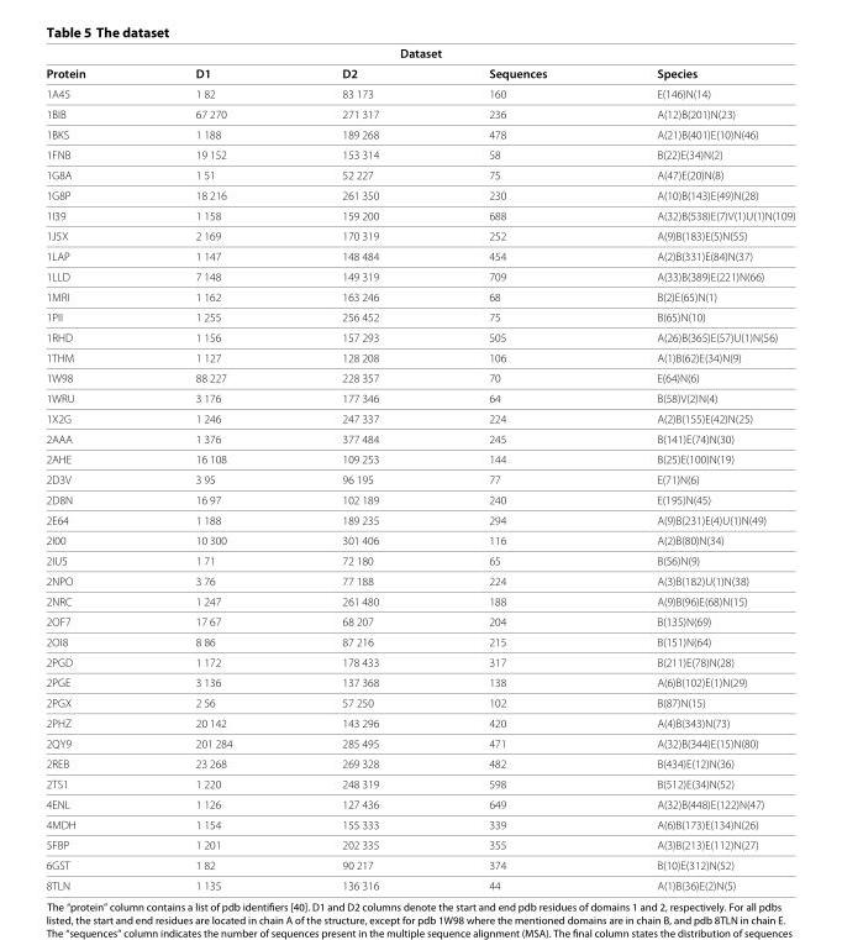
<table><thead><tr><td colspan="5">Dataset</td></tr><tr><td>Protein</td><td>D1</td><td>D2</td><td>Sequences</td><td>Species</td></tr></thead><tbody><tr><td>1A45</td><td>1 82</td><td>83 173</td><td>160</td><td>E(146)N(14)</td></tr><tr><td>1BIB</td><td>67 270</td><td>271 317</td><td>236</td><td>A(12)B(201)N(23)</td></tr><tr><td>1BKS</td><td>1 188</td><td>189 268</td><td>478</td><td>A(21)B(401)E(10)N(46)</td></tr><tr><td>1FNB</td><td>19 152</td><td>153 314</td><td>58</td><td>B(22)E(34)N(2)</td></tr><tr><td>1G8A</td><td>1 51</td><td>52 227</td><td>75</td><td>A(47)E(20)N(8)</td></tr><tr><td>1G8P</td><td>18 216</td><td>261 350</td><td>230</td><td>A(10)B(143)E(49)N(28)</td></tr><tr><td>1I39</td><td>1 158</td><td>159 200</td><td>688</td><td>A(32)B(538)E(7)V(1)U(1)N(109)</td></tr><tr><td>1J5X</td><td>2 169</td><td>170 319</td><td>252</td><td>A(9)B(183)E(5)N(55)</td></tr><tr><td>1LAP</td><td>1 147</td><td>148 484</td><td>454</td><td>A(2)B(331)E(84)N(37)</td></tr><tr><td>1LLD</td><td>7 148</td><td>149 319</td><td>709</td><td>A(33)B(389)E(221)N(66)</td></tr><tr><td>1MRI</td><td>1 162</td><td>163 246</td><td>68</td><td>B(2)E(65)N(1)</td></tr><tr><td>1PII</td><td>1 255</td><td>256 452</td><td>75</td><td>B(65)N(10)</td></tr><tr><td>1RHD</td><td>1 156</td><td>157 293</td><td>505</td><td>A(26)B(365)E(57)U(1)N(56)</td></tr><tr><td>1THM</td><td>1 127</td><td>128 208</td><td>106</td><td>A(1)B(62)E(34)N(9)</td></tr><tr><td>1W98</td><td>88 227</td><td>228 357</td><td>70</td><td>E(64)N(6)</td></tr><tr><td>1WRU</td><td>3 176</td><td>177 346</td><td>64</td><td>B(58)V(2)N(4)</td></tr><tr><td>1X2G</td><td>1 246</td><td>247 337</td><td>224</td><td>A(2)B(155)E(42)N(25)</td></tr><tr><td>2AAA</td><td>1 376</td><td>377 484</td><td>245</td><td>B(141)E(74)N(30)</td></tr><tr><td>2AHE</td><td>16 108</td><td>109 253</td><td>144</td><td>B(25)E(100)N(19)</td></tr><tr><td>2D3V</td><td>3 95</td><td>96 195</td><td>77</td><td>E(71)N(6)</td></tr><tr><td>2D8N</td><td>16 97</td><td>102 189</td><td>240</td><td>E(195)N(45)</td></tr><tr><td>2E64</td><td>1 188</td><td>189 235</td><td>294</td><td>A(9)B(231)E(4)U(1)N(49)</td></tr><tr><td>2I00</td><td>10 300</td><td>301 406</td><td>116</td><td>A(2)B(80)N(34)</td></tr><tr><td>2IU5</td><td>1 71</td><td>72 180</td><td>65</td><td>B(56)N(9)</td></tr><tr><td>2NPO</td><td>3 76</td><td>77 188</td><td>224</td><td>A(3)B(182)U(1)N(38)</td></tr><tr><td>2NRC</td><td>1 247</td><td>261 480</td><td>188</td><td>A(9)B(96)E(68)N(15)</td></tr><tr><td>2OF7</td><td>17 67</td><td>68 207</td><td>204</td><td>B(135)N(69)</td></tr><tr><td>2OI8</td><td>8 86</td><td>87 216</td><td>215</td><td>B(151)N(64)</td></tr><tr><td>2PGD</td><td>1 172</td><td>178 433</td><td>317</td><td>B(211)E(78)N(28)</td></tr><tr><td>2PGE</td><td>3 136</td><td>137 368</td><td>138</td><td>A(6)B(102)E(1)N(29)</td></tr><tr><td>2PGX</td><td>2 56</td><td>57 250</td><td>102</td><td>B(87)N(15)</td></tr><tr><td>2PHZ</td><td>20 142</td><td>143 296</td><td>420</td><td>A(4)B(343)N(73)</td></tr><tr><td>2QY9</td><td>201 284</td><td>285 495</td><td>471</td><td>A(32)B(344)E(15)N(80)</td></tr><tr><td>2REB</td><td>23 268</td><td>269 328</td><td>482</td><td>B(434)E(12)N(36)</td></tr><tr><td>2TS1</td><td>1 220</td><td>248 319</td><td>598</td><td>B(512)E(34)N(52)</td></tr><tr><td>4ENL</td><td>1 126</td><td>127 436</td><td>649</td><td>A(32)B(448)E(122)N(47)</td></tr><tr><td>4MDH</td><td>1 154</td><td>155 333</td><td>339</td><td>A(6)B(173)E(134)N(26)</td></tr><tr><td>5FBP</td><td>1 201</td><td>202 335</td><td>355</td><td>A(3)B(213)E(112)N(27)</td></tr><tr><td>6GST</td><td>1 82</td><td>90 217</td><td>374</td><td>B(10)E(312)N(52)</td></tr><tr><td>8TLN</td><td>1 135</td><td>136 316</td><td>44</td><td>A(1)B(36)E(2)N(5)</td></tr></tbody></table>